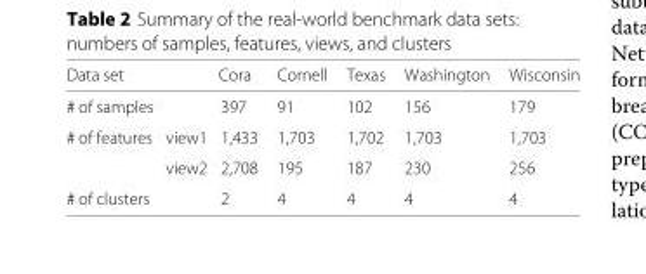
<table><thead><tr><td rowspan="2" colspan="2">Data set # of samples</td><td rowspan="3">Cora 397 1,433</td><td rowspan="3">Cornell 91 1,703</td><td rowspan="3">Texas 102 1,702</td><td rowspan="3">Washington 156 1,703</td><td rowspan="3">Wisconsin 179 1,703</td></tr><tr></tr><tr><td># of features</td><td>view1</td></tr></thead><tbody><tr><td></td><td>view2</td><td>2,708</td><td>195</td><td>187</td><td>230</td><td>256</td></tr><tr><td colspan="2"># of clusters</td><td>2</td><td>4</td><td>4</td><td>4</td><td>4</td></tr></tbody></table>